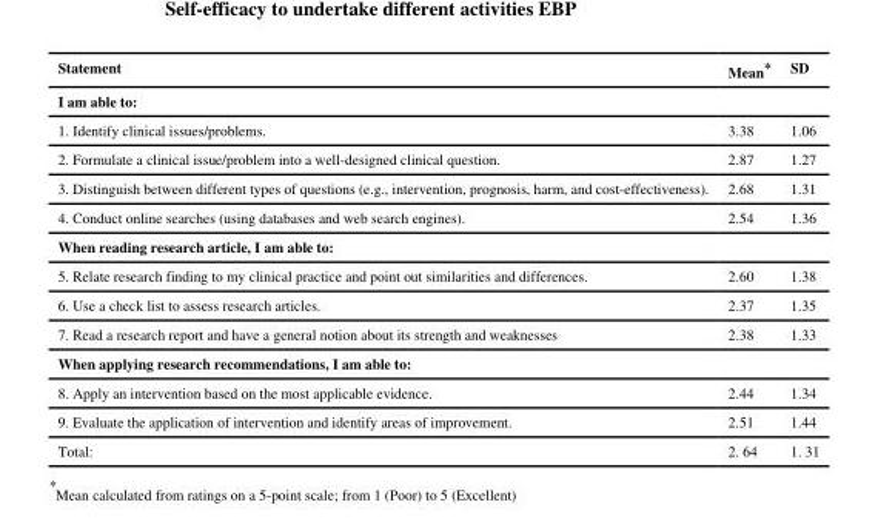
<table><thead><tr><td>Statement</td><td>Mean*</td><td>SD</td></tr></thead><tbody><tr><td colspan="3">I am able to:</td></tr><tr><td>1. Identify clinical issues/problems.</td><td>3.38</td><td>1.06</td></tr><tr><td>2. Formulate a clinical issue/problem into a well-designed clinical question.</td><td>2.87</td><td>1.27</td></tr><tr><td>3. Distinguish between different types of questions (e.g., intervention, prognosis, harm, and cost-effectiveness).</td><td>2.68</td><td>1.31</td></tr><tr><td>4. Conduct online searches (using databases and web search engines).</td><td>2.54</td><td>1.36</td></tr><tr><td colspan="3">When reading research article, I am able to:</td></tr><tr><td>5. Relate research finding to my clinical practice and point out similarities and differences.</td><td>2.60</td><td>1.38</td></tr><tr><td>6. Use a check list to assess research articles.</td><td>2.37</td><td>1.35</td></tr><tr><td>7. Read a research report and have a general notion about its strength and weaknesses</td><td>2.38</td><td>1.33</td></tr><tr><td colspan="3">When applying research recommendations, I am able to:</td></tr><tr><td>8. Apply an intervention based on the most applicable evidence.</td><td>2.44</td><td>1.34</td></tr><tr><td>9. Evaluate the application of intervention and identify areas of improvement.</td><td>2.51</td><td>1.44</td></tr><tr><td>Total:</td><td>2. 64</td><td>1. 31</td></tr></tbody></table>